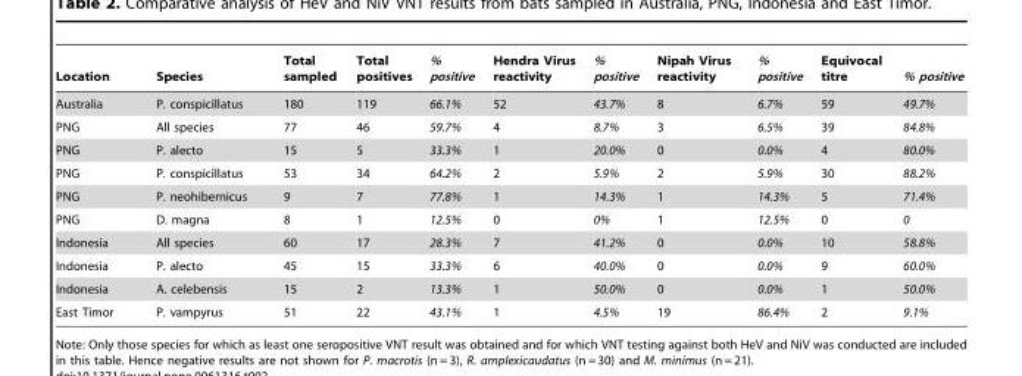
<table><thead><tr><td>Location</td><td>Species</td><td>Total sampled</td><td>Total positives</td><td>% positive</td><td>Hendra Virus reactivity</td><td>% positive</td><td>Nipah Virus reactivity</td><td>% positive</td><td>Equivocal titre</td><td>% positive</td></tr></thead><tbody><tr><td>Australia</td><td>P. conspicillatus</td><td>180</td><td>119</td><td>66.1%</td><td>52</td><td>43.7%</td><td>8</td><td>6.7%</td><td>59</td><td>49.7%</td></tr><tr><td>PNG</td><td>All species</td><td>77</td><td>46</td><td>59.7%</td><td>4</td><td>8.7%</td><td>3</td><td>6.5%</td><td>39</td><td>84.8%</td></tr><tr><td>PNG</td><td>P. alecto</td><td>15</td><td>5</td><td>33.3%</td><td>1</td><td>20.0%</td><td>0</td><td>0.0%</td><td>4</td><td>80.0%</td></tr><tr><td>PNG</td><td>P. conspicillatus</td><td>53</td><td>34</td><td>64.2%</td><td>2</td><td>5.9%</td><td>2</td><td>5.9%</td><td>30</td><td>88.2%</td></tr><tr><td>PNG</td><td>P. neohibernicus</td><td>9</td><td>7</td><td>77.8%</td><td>1</td><td>14.3%</td><td>1</td><td>14.3%</td><td>5</td><td>71.4%</td></tr><tr><td>PNG</td><td>D. magna</td><td>8</td><td>1</td><td>12.5%</td><td>0</td><td>0%</td><td>1</td><td>12.5%</td><td>0</td><td>0</td></tr><tr><td>Indonesia</td><td>All species</td><td>60</td><td>17</td><td>28.3%</td><td>7</td><td>41.2%</td><td>0</td><td>0.0%</td><td>10</td><td>58.8%</td></tr><tr><td>Indonesia</td><td>P. alecto</td><td>45</td><td>15</td><td>33.3%</td><td>6</td><td>40.0%</td><td>0</td><td>0.0%</td><td>9</td><td>60.0%</td></tr><tr><td>Indonesia</td><td>A. celebensis</td><td>15</td><td>2</td><td>13.3%</td><td>1</td><td>50.0%</td><td>0</td><td>0.0%</td><td>1</td><td>50.0%</td></tr><tr><td>East Timor</td><td>P. vampyrus</td><td>51</td><td>22</td><td>43.1%</td><td>1</td><td>4.5%</td><td>19</td><td>86.4%</td><td>2</td><td>9.1%</td></tr></tbody></table>